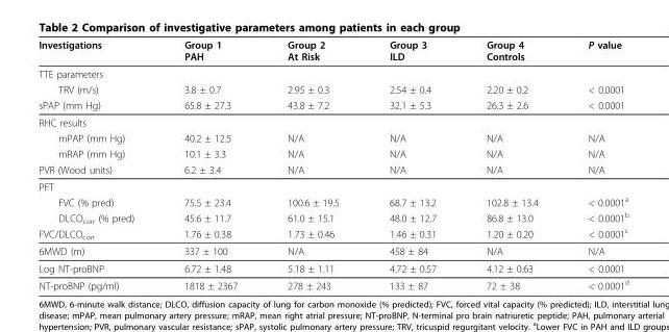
<table><thead><tr><td>Investigations</td><td>Group 1 PAH</td><td>Group 2 At Risk</td><td>Group 3 ILD</td><td>Group 4 Controls</td><td>P value</td></tr></thead><tbody><tr><td colspan="6">TTE parameters</td></tr><tr><td>TRV (m/s)</td><td>3.8 ± 0.7</td><td>2.95 ± 0.3</td><td>2.54 ± 0.4</td><td>2.20 ± 0.2</td><td>&lt; 0.0001</td></tr><tr><td>sPAP (mm Hg)</td><td>65.8 ± 27.3</td><td>43.8 ± 7.2</td><td>32.1 ± 5.3</td><td>26.3 ± 2.6</td><td>&lt; 0.0001</td></tr><tr><td colspan="6">RHC results</td></tr><tr><td>mPAP (mm Hg)</td><td>40.2 ± 12.5</td><td>N/A</td><td>N/A</td><td>N/A</td><td>N/A</td></tr><tr><td>mRAP (mm Hg)</td><td>10.1 ± 3.3</td><td>N/A</td><td>N/A</td><td>N/A</td><td>N/A</td></tr><tr><td>PVR (Wood units)</td><td>6.2 ± 3.4</td><td>N/A</td><td>N/A</td><td>N/A</td><td>N/A</td></tr><tr><td colspan="6">PFT</td></tr><tr><td>FVC (% pred)</td><td>75.5 ± 23.4</td><td>100.6 ± 19.5</td><td>68.7 ± 13.2</td><td>102.8 ± 13.4</td><td>&lt; 0.0001<sup>a</sup></td></tr><tr><td>DLCO<sub>corr</sub> (% pred)</td><td>45.6 ± 11.7</td><td>61.0 ± 15.1</td><td>48.0 ± 12.7</td><td>86.8 ± 13.0</td><td>&lt; 0.0001<sup>b</sup></td></tr><tr><td>FVC/DLCO<sub>corr</sub></td><td>1.76 ± 0.38</td><td>1.73 ± 0.46</td><td>1.46 ± 0.31</td><td>1.20 ± 0.20</td><td>&lt; 0.0001<sup>c</sup></td></tr><tr><td>6MWD (m)</td><td>337 ± 100</td><td>N/A</td><td>458 ± 84</td><td>N/A</td><td>N/A</td></tr><tr><td>Log NT-proBNP</td><td>6.72 ± 1.48</td><td>5.18 ± 1.11</td><td>4.72 ± 0.57</td><td>4.12 ± 0.63</td><td>&lt; 0.0001</td></tr><tr><td>NT-proBNP (pg/ml)</td><td>1818 ± 2367</td><td>278 ± 243</td><td>133 ± 87</td><td>72 ± 38</td><td>&lt; 0.0001<sup>d</sup></td></tr></tbody></table>